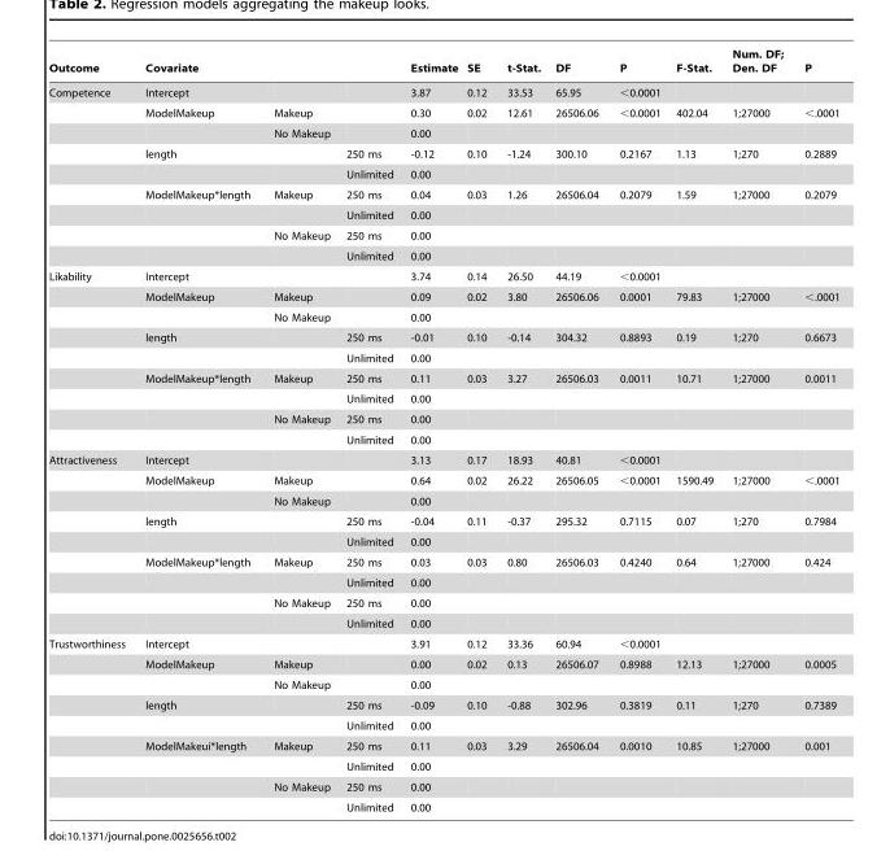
<table><thead><tr><td>Outcome</td><td>Covariate</td><td></td><td></td><td>Estimate</td><td>SE</td><td>t-Stat.</td><td>DF</td><td>P</td><td>F-Stat.</td><td>Num. DF; Den. DF</td><td>P</td></tr></thead><tbody><tr><td rowspan="9">Competence</td><td>Intercept</td><td></td><td></td><td>3.87</td><td>0.12</td><td>33.53</td><td>65.95</td><td>&lt;0.0001</td><td></td><td></td><td></td></tr><tr><td>ModelMakeup</td><td>Makeup</td><td></td><td>0.30</td><td>0.02</td><td>12.61</td><td>26506.06</td><td>&lt;0.0001</td><td>402.04</td><td>1;27000</td><td>&lt;.0001</td></tr><tr><td></td><td>No Makeup</td><td></td><td>0.00</td><td></td><td></td><td></td><td></td><td></td><td></td><td></td></tr><tr><td>length</td><td></td><td>250 ms</td><td>-0.12</td><td>0.10</td><td>-1.24</td><td>300.10</td><td>0.2167</td><td>1.13</td><td>1;270</td><td>0.2889</td></tr><tr><td></td><td></td><td>Unlimited</td><td>0.00</td><td></td><td></td><td></td><td></td><td></td><td></td><td></td></tr><tr><td>ModelMakeup*length</td><td>Makeup</td><td>250 ms</td><td>0.04</td><td>0.03</td><td>1.26</td><td>26506.04</td><td>0.2079</td><td>1.59</td><td>1;27000</td><td>0.2079</td></tr><tr><td></td><td></td><td>Unlimited</td><td>0.00</td><td></td><td></td><td></td><td></td><td></td><td></td><td></td></tr><tr><td></td><td>No Makeup</td><td>250 ms</td><td>0.00</td><td></td><td></td><td></td><td></td><td></td><td></td><td></td></tr><tr><td></td><td></td><td>Unlimited</td><td>0.00</td><td></td><td></td><td></td><td></td><td></td><td></td><td></td></tr><tr><td rowspan="9">Likability</td><td>Intercept</td><td></td><td></td><td>3.74</td><td>0.14</td><td>26.50</td><td>44.19</td><td>&lt;0.0001</td><td></td><td></td><td></td></tr><tr><td>ModelMakeup</td><td>Makeup</td><td></td><td>0.09</td><td>0.02</td><td>3.80</td><td>26506.06</td><td>0.0001</td><td>79.83</td><td>1;27000</td><td>&lt;.0001</td></tr><tr><td></td><td>No Makeup</td><td></td><td>0.00</td><td></td><td></td><td></td><td></td><td></td><td></td><td></td></tr><tr><td>length</td><td></td><td>250 ms</td><td>-0.01</td><td>0.10</td><td>-0.14</td><td>304.32</td><td>0.8893</td><td>0.19</td><td>1;270</td><td>0.6673</td></tr><tr><td></td><td></td><td>Unlimited</td><td>0.00</td><td></td><td></td><td></td><td></td><td></td><td></td><td></td></tr><tr><td>ModelMakeup*length</td><td>Makeup</td><td>250 ms</td><td>0.11</td><td>0.03</td><td>3.27</td><td>26506.03</td><td>0.0011</td><td>10.71</td><td>1;27000</td><td>0.0011</td></tr><tr><td></td><td></td><td>Unlimited</td><td>0.00</td><td></td><td></td><td></td><td></td><td></td><td></td><td></td></tr><tr><td></td><td>No Makeup</td><td>250 ms</td><td>0.00</td><td></td><td></td><td></td><td></td><td></td><td></td><td></td></tr><tr><td></td><td></td><td>Unlimited</td><td>0.00</td><td></td><td></td><td></td><td></td><td></td><td></td><td></td></tr><tr><td rowspan="9">Attractiveness</td><td>Intercept</td><td></td><td></td><td>3.13</td><td>0.17</td><td>18.93</td><td>40.81</td><td>&lt;0.0001</td><td></td><td></td><td></td></tr><tr><td>ModelMakeup</td><td>Makeup</td><td></td><td>0.64</td><td>0.02</td><td>26.22</td><td>26506.05</td><td>&lt;0.0001</td><td>1590.49</td><td>1;27000</td><td>&lt;.0001</td></tr><tr><td></td><td>No Makeup</td><td></td><td>0.00</td><td></td><td></td><td></td><td></td><td></td><td></td><td></td></tr><tr><td>length</td><td></td><td>250 ms</td><td>-0.04</td><td>0.11</td><td>-0.37</td><td>295.32</td><td>0.7115</td><td>0.07</td><td>1;270</td><td>0.7984</td></tr><tr><td></td><td></td><td>Unlimited</td><td>0.00</td><td></td><td></td><td></td><td></td><td></td><td></td><td></td></tr><tr><td>ModelMakeup*length</td><td>Makeup</td><td>250 ms</td><td>0.03</td><td>0.03</td><td>0.80</td><td>26506.03</td><td>0.4240</td><td>0.64</td><td>1;27000</td><td>0.424</td></tr><tr><td></td><td></td><td>Unlimited</td><td>0.00</td><td></td><td></td><td></td><td></td><td></td><td></td><td></td></tr><tr><td></td><td>No Makeup</td><td>250 ms</td><td>0.00</td><td></td><td></td><td></td><td></td><td></td><td></td><td></td></tr><tr><td></td><td></td><td>Unlimited</td><td>0.00</td><td></td><td></td><td></td><td></td><td></td><td></td><td></td></tr><tr><td rowspan="9">Trustworthiness</td><td>Intercept</td><td></td><td></td><td>3.91</td><td>0.12</td><td>33.36</td><td>60.94</td><td>&lt;0.0001</td><td></td><td></td><td></td></tr><tr><td>ModelMakeup</td><td>Makeup</td><td></td><td>0.00</td><td>0.02</td><td>0.13</td><td>26506.07</td><td>0.8988</td><td>12.13</td><td>1;27000</td><td>0.0005</td></tr><tr><td></td><td>No Makeup</td><td></td><td>0.00</td><td></td><td></td><td></td><td></td><td></td><td></td><td></td></tr><tr><td>length</td><td></td><td>250 ms</td><td>-0.09</td><td>0.10</td><td>-0.88</td><td>302.96</td><td>0.3819</td><td>0.11</td><td>1;270</td><td>0.7389</td></tr><tr><td></td><td></td><td>Unlimited</td><td>0.00</td><td></td><td></td><td></td><td></td><td></td><td></td><td></td></tr><tr><td>ModelMakeui*length</td><td>Makeup</td><td>250 ms</td><td>0.11</td><td>0.03</td><td>3.29</td><td>26506.04</td><td>0.0010</td><td>10.85</td><td>1;27000</td><td>0.001</td></tr><tr><td></td><td></td><td>Unlimited</td><td>0.00</td><td></td><td></td><td></td><td></td><td></td><td></td><td></td></tr><tr><td></td><td>No Makeup</td><td>250 ms</td><td>0.00</td><td></td><td></td><td></td><td></td><td></td><td></td><td></td></tr><tr><td></td><td></td><td>Unlimited</td><td>0.00</td><td></td><td></td><td></td><td></td><td></td><td></td><td></td></tr></tbody></table>